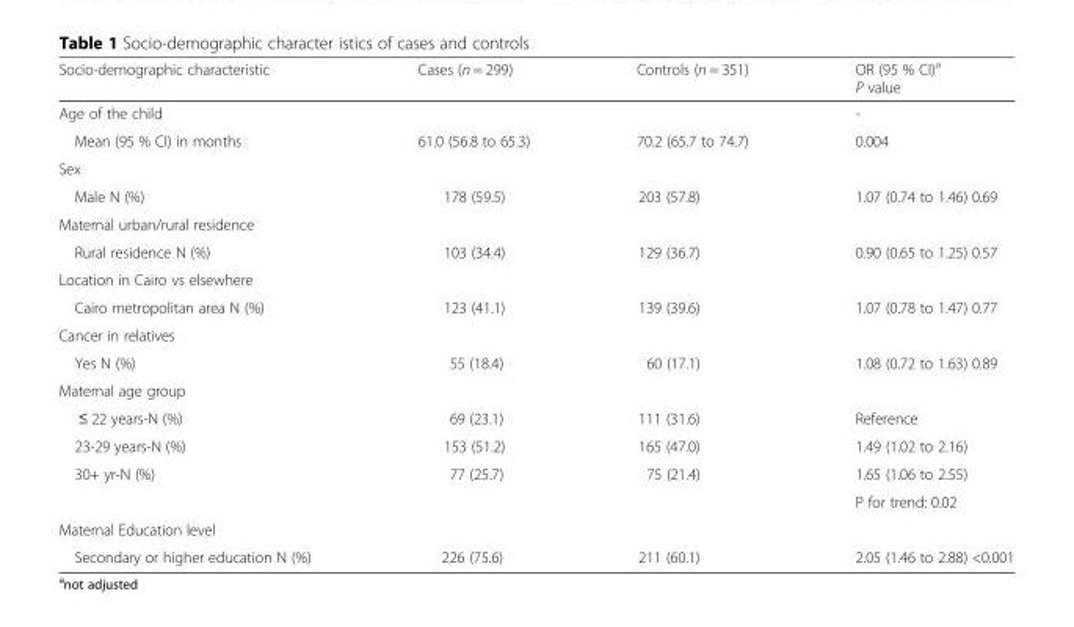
<table><thead><tr><td>Socio-demographic characteristic</td><td>Cases (n = 299)</td><td>Controls (n = 351)</td><td>OR (95 % CI)<sup>a</sup> P value</td></tr></thead><tbody><tr><td>Age of the child</td><td></td><td></td><td>-</td></tr><tr><td>Mean (95 % CI) in months</td><td>61.0 (56.8 to 65.3)</td><td>70.2 (65.7 to 74.7)</td><td>0.004</td></tr><tr><td colspan="4">Sex</td></tr><tr><td>Male N (%)</td><td>178 (59.5)</td><td>203 (57.8)</td><td>1.07 (0.74 to 1.46) 0.69</td></tr><tr><td colspan="4">Maternal urban/rural residence</td></tr><tr><td>Rural residence N (%)</td><td>103 (34.4)</td><td>129 (36.7)</td><td>0.90 (0.65 to 1.25) 0.57</td></tr><tr><td colspan="4">Location in Cairo vs elsewhere</td></tr><tr><td>Cairo metropolitan area N (%)</td><td>123 (41.1)</td><td>139 (39.6)</td><td>1.07 (0.78 to 1.47) 0.77</td></tr><tr><td colspan="4">Cancer in relatives</td></tr><tr><td>Yes N (%)</td><td>55 (18.4)</td><td>60 (17.1)</td><td>1.08 (0.72 to 1.63) 0.89</td></tr><tr><td colspan="4">Maternal age group</td></tr><tr><td>≤ 22 years-N (%)</td><td>69 (23.1)</td><td>111 (31.6)</td><td>Reference</td></tr><tr><td>23-29 years-N (%)</td><td>153 (51.2)</td><td>165 (47.0)</td><td>1.49 (1.02 to 2.16)</td></tr><tr><td rowspan="2">30+ yr-N (%)</td><td>77 (25.7)</td><td>75 (21.4)</td><td>1.65 (1.06 to 2.55)</td></tr><tr><td></td><td></td><td>P for trend: 0.02</td></tr><tr><td colspan="4">Maternal Education level</td></tr><tr><td>Secondary or higher education N (%)</td><td>226 (75.6)</td><td>211 (60.1)</td><td>2.05 (1.46 to 2.88) &lt;0.001</td></tr></tbody></table>